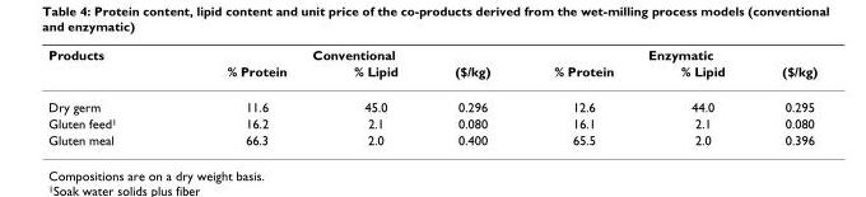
<table><thead><tr><td rowspan="2">Products</td><td colspan="3">Conventional</td><td colspan="3">Enzymatic</td></tr><tr><td>% Protein</td><td>% Lipid</td><td>($/kg)</td><td>% Protein</td><td>% Lipid</td><td>($/kg)</td></tr></thead><tbody><tr><td>Dry germ</td><td>11.6</td><td>45.0</td><td>0.296</td><td>12.6</td><td>44.0</td><td>0.295</td></tr><tr><td>Gluten feed<sup>1</sup></td><td>16.2</td><td>2.1</td><td>0.080</td><td>16.1</td><td>2.1</td><td>0.080</td></tr><tr><td>Gluten meal</td><td>66.3</td><td>2.0</td><td>0.400</td><td>65.5</td><td>2.0</td><td>0.396</td></tr></tbody></table>